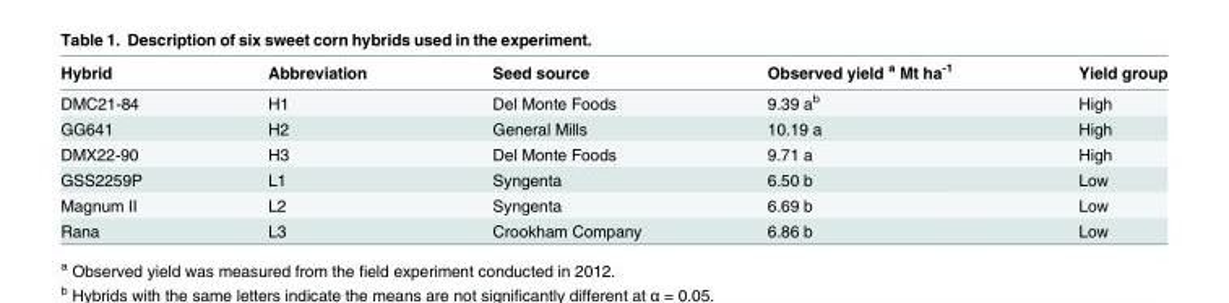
<table><thead><tr><td>Hybrid</td><td>Abbreviation</td><td>Seed source</td><td>Observed yield <sup>a</sup> Mt ha<sup>-1</sup></td><td>Yield group</td></tr></thead><tbody><tr><td>DMC21-84</td><td>H1</td><td>Del Monte Foods</td><td>9.39 a<sup>b</sup></td><td>High</td></tr><tr><td>GG641</td><td>H2</td><td>General Mills</td><td>10.19 a</td><td>High</td></tr><tr><td>DMX22-90</td><td>H3</td><td>Del Monte Foods</td><td>9.71 a</td><td>High</td></tr><tr><td>GSS2259P</td><td>L1</td><td>Syngenta</td><td>6.50 b</td><td>Low</td></tr><tr><td>Magnum II</td><td>L2</td><td>Syngenta</td><td>6.69 b</td><td>Low</td></tr><tr><td>Rana</td><td>L3</td><td>Crookham Company</td><td>6.86 b</td><td>Low</td></tr></tbody></table>